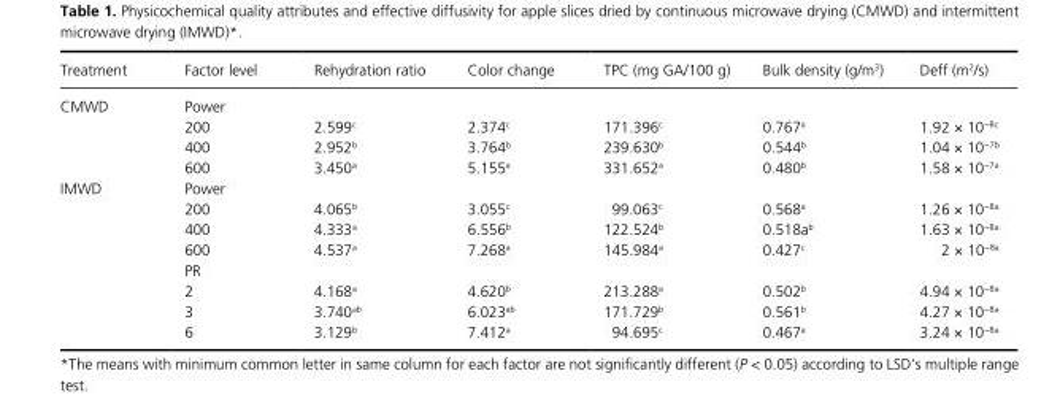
<table><thead><tr><td>Treatment</td><td>Factor level</td><td>Rehydration ratio</td><td>Color change</td><td>TPC (mg GA/100 g)</td><td>Bulk density (g/m<sup>3</sup>)</td><td>Deff (m<sup>2</sup>/s)</td></tr></thead><tbody><tr><td rowspan="4">CMWD</td><td colspan="6">Power</td></tr><tr><td>200</td><td>2.599<sup>c</sup></td><td>2.374<sup>c</sup></td><td>171.396<sup>c</sup></td><td>0.767<sup>a</sup></td><td>1.92 × 10<sup>−8c</sup></td></tr><tr><td>400</td><td>2.952<sup>b</sup></td><td>3.764<sup>b</sup></td><td>239.630<sup>b</sup></td><td>0.544<sup>b</sup></td><td>1.04 × 10<sup>−7b</sup></td></tr><tr><td>600</td><td>3.450<sup>a</sup></td><td>5.155<sup>a</sup></td><td>331.652<sup>a</sup></td><td>0.480<sup>b</sup></td><td>1.58 × 10<sup>−7a</sup></td></tr><tr><td rowspan="8">IMWD</td><td colspan="6">Power</td></tr><tr><td>200</td><td>4.065<sup>b</sup></td><td>3.055<sup>c</sup></td><td>99.063<sup>c</sup></td><td>0.568<sup>a</sup></td><td>1.26 × 10<sup>−8a</sup></td></tr><tr><td>400</td><td>4.333<sup>a</sup></td><td>6.556<sup>b</sup></td><td>122.524<sup>b</sup></td><td>0.518a<sup>b</sup></td><td>1.63 × 10<sup>−8a</sup></td></tr><tr><td>600</td><td>4.537<sup>a</sup></td><td>7.268<sup>a</sup></td><td>145.984<sup>a</sup></td><td>0.427<sup>c</sup></td><td>2 × 10<sup>−8a</sup></td></tr><tr><td colspan="6">PR</td></tr><tr><td>2</td><td>4.168<sup>a</sup></td><td>4.620<sup>b</sup></td><td>213.288<sup>a</sup></td><td>0.502<sup>b</sup></td><td>4.94 × 10<sup>−8a</sup></td></tr><tr><td>3</td><td>3.740<sup>ab</sup></td><td>6.023<sup>ab</sup></td><td>171.729<sup>b</sup></td><td>0.561<sup>b</sup></td><td>4.27 × 10<sup>−8a</sup></td></tr><tr><td>6</td><td>3.129<sup>b</sup></td><td>7.412<sup>a</sup></td><td>94.695<sup>c</sup></td><td>0.467<sup>a</sup></td><td>3.24 × 10<sup>−8a</sup></td></tr></tbody></table>